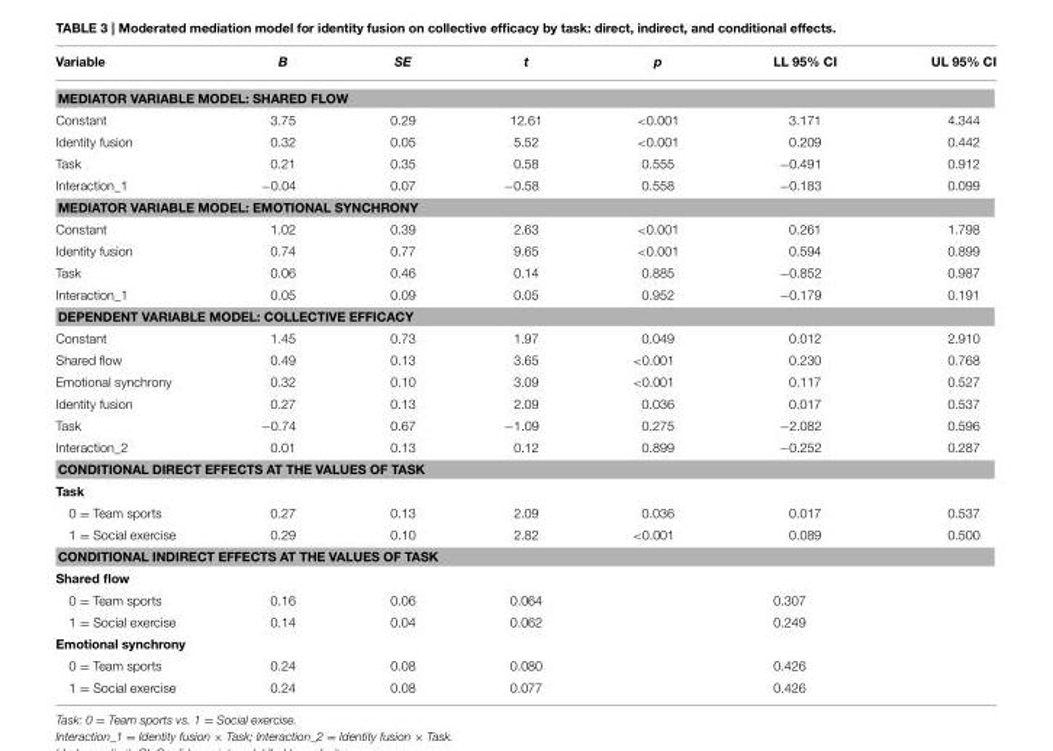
<table><thead><tr><td>Variable</td><td>B</td><td>SE</td><td>t</td><td>p</td><td>LL 95% CI</td><td>UL 95% CI</td></tr></thead><tbody><tr><td colspan="7">MEDIATOR VARIABLE MODEL: SHARED FLOW</td></tr><tr><td>Constant</td><td>3.75</td><td>0.29</td><td>12.61</td><td>&lt;0.001</td><td>3.171</td><td>4.344</td></tr><tr><td>Identity fusion</td><td>0.32</td><td>0.05</td><td>5.52</td><td>&lt;0.001</td><td>0.209</td><td>0.442</td></tr><tr><td>Task</td><td>0.21</td><td>0.35</td><td>0.58</td><td>0.555</td><td>−0.491</td><td>0.912</td></tr><tr><td>Interaction_1</td><td>−0.04</td><td>0.07</td><td>−0.58</td><td>0.558</td><td>−0.183</td><td>0.099</td></tr><tr><td colspan="7">MEDIATOR VARIABLE MODEL: EMOTIONAL SYNCHRONY</td></tr><tr><td>Constant</td><td>1.02</td><td>0.39</td><td>2.63</td><td>&lt;0.001</td><td>0.261</td><td>1.798</td></tr><tr><td>Identity fusion</td><td>0.74</td><td>0.77</td><td>9.65</td><td>&lt;0.001</td><td>0.594</td><td>0.899</td></tr><tr><td>Task</td><td>0.06</td><td>0.46</td><td>0.14</td><td>0.885</td><td>−0.852</td><td>0.987</td></tr><tr><td>Interaction_1</td><td>0.05</td><td>0.09</td><td>0.05</td><td>0.952</td><td>−0.179</td><td>0.191</td></tr><tr><td colspan="7">DEPENDENT VARIABLE MODEL: COLLECTIVE EFFICACY</td></tr><tr><td>Constant</td><td>1.45</td><td>0.73</td><td>1.97</td><td>0.049</td><td>0.012</td><td>2.910</td></tr><tr><td>Shared flow</td><td>0.49</td><td>0.13</td><td>3.65</td><td>&lt;0.001</td><td>0.230</td><td>0.768</td></tr><tr><td>Emotional synchrony</td><td>0.32</td><td>0.10</td><td>3.09</td><td>&lt;0.001</td><td>0.117</td><td>0.527</td></tr><tr><td>Identity fusion</td><td>0.27</td><td>0.13</td><td>2.09</td><td>0.036</td><td>0.017</td><td>0.537</td></tr><tr><td>Task</td><td>−0.74</td><td>0.67</td><td>−1.09</td><td>0.275</td><td>−2.082</td><td>0.596</td></tr><tr><td>Interaction_2</td><td>0.01</td><td>0.13</td><td>0.12</td><td>0.899</td><td>−0.252</td><td>0.287</td></tr><tr><td colspan="7">CONDITIONAL DIRECT EFFECTS AT THE VALUES OF TASK</td></tr><tr><td colspan="7">Task</td></tr><tr><td>0 = Team sports</td><td>0.27</td><td>0.13</td><td>2.09</td><td>0.036</td><td>0.017</td><td>0.537</td></tr><tr><td>1 = Social exercise</td><td>0.29</td><td>0.10</td><td>2.82</td><td>&lt;0.001</td><td>0.089</td><td>0.500</td></tr><tr><td colspan="7">CONDITIONAL INDIRECT EFFECTS AT THE VALUES OF TASK</td></tr><tr><td colspan="7">Shared flow</td></tr><tr><td>0 = Team sports</td><td>0.16</td><td>0.06</td><td colspan="2">0.064</td><td colspan="2">0.307</td></tr><tr><td>1 = Social exercise</td><td>0.14</td><td>0.04</td><td colspan="2">0.062</td><td colspan="2">0.249</td></tr><tr><td colspan="7">Emotional synchrony</td></tr><tr><td>0 = Team sports</td><td>0.24</td><td>0.08</td><td colspan="2">0.080</td><td colspan="2">0.426</td></tr><tr><td>1 = Social exercise</td><td>0.24</td><td>0.08</td><td colspan="2">0.077</td><td colspan="2">0.426</td></tr></tbody></table>